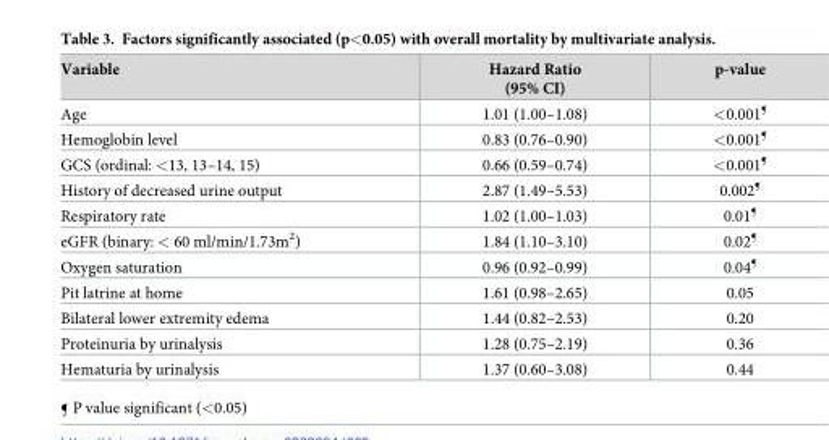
<table><thead><tr><td>Variable</td><td>Hazard Ratio (95% CI)</td><td>p-value</td></tr></thead><tbody><tr><td>Age</td><td>1.01 (1.00–1.08)</td><td>&lt;0.001<sup>¶</sup></td></tr><tr><td>Hemoglobin level</td><td>0.83 (0.76–0.90)</td><td>&lt;0.001<sup>¶</sup></td></tr><tr><td>GCS (ordinal: &lt;13, 13–14, 15)</td><td>0.66 (0.59–0.74)</td><td>&lt;0.001<sup>¶</sup></td></tr><tr><td>History of decreased urine output</td><td>2.87 (1.49–5.53)</td><td>0.002<sup>¶</sup></td></tr><tr><td>Respiratory rate</td><td>1.02 (1.00–1.03)</td><td>0.01<sup>¶</sup></td></tr><tr><td>eGFR (binary: &lt; 60 ml/min/1.73m<sup>2</sup>)</td><td>1.84 (1.10–3.10)</td><td>0.02<sup>¶</sup></td></tr><tr><td>Oxygen saturation</td><td>0.96 (0.92–0.99)</td><td>0.04<sup>¶</sup></td></tr><tr><td>Pit latrine at home</td><td>1.61 (0.98–2.65)</td><td>0.05</td></tr><tr><td>Bilateral lower extremity edema</td><td>1.44 (0.82–2.53)</td><td>0.20</td></tr><tr><td>Proteinuria by urinalysis</td><td>1.28 (0.75–2.19)</td><td>0.36</td></tr><tr><td>Hematuria by urinalysis</td><td>1.37 (0.60–3.08)</td><td>0.44</td></tr></tbody></table>